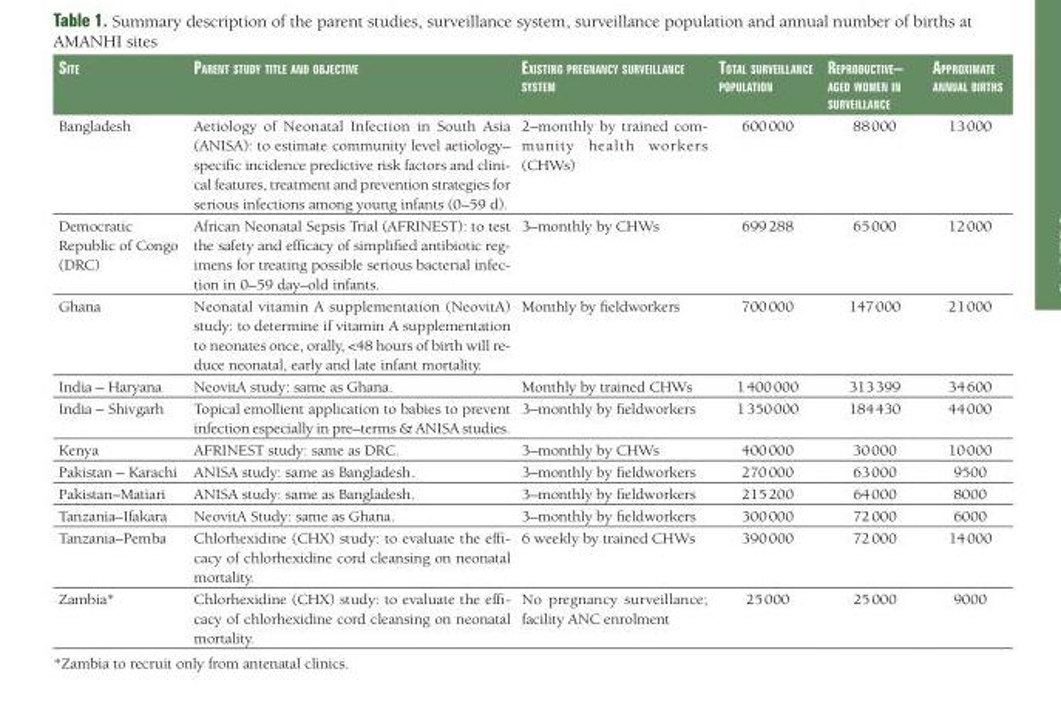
<table><thead><tr><td>Site</td><td>Parent Study title and objective</td><td>exiSting Pregnancy Surveillance SyStem</td><td>total Surveillance PoPulation</td><td>reProductive– aged women in Surveillance</td><td>aPProximate annual birthS</td></tr></thead><tbody><tr><td>Bangladesh</td><td>Aetiology of Neonatal Infection in South Asia (ANISA): to estimate community level aetiology– specific incidence predictive risk factors and clini- cal features, treatment and prevention strategies for serious infections among young infants (0–59 d).</td><td>2–monthly by trained com- munity health workers (CHWs)</td><td>600 000</td><td>88 000</td><td>13 000</td></tr><tr><td>Democratic Republic of Congo (DRC)</td><td>African Neonatal Sepsis Trial (AFRINEST): to test the safety and efficacy of simplified antibiotic reg- imens for treating possible serious bacterial infec- tion in 0–59 day–old infants.</td><td>3–monthly by CHWs</td><td>699 288</td><td>65 000</td><td>12 000</td></tr><tr><td>Ghana</td><td>Neonatal vitamin A supplementation (NeovitA) study: to determine if vitamin A supplementation to neonates once, orally, &lt;48 hours of birth will re- duce neonatal, early and late infant mortality.</td><td>Monthly by fieldworkers</td><td>700 000</td><td>147 000</td><td>21 000</td></tr><tr><td>India – Haryana</td><td>NeovitA study: same as Ghana.</td><td>Monthly by trained CHWs</td><td>1 400 000</td><td>313 399</td><td>34 600</td></tr><tr><td>India – Shivgarh</td><td>Topical emollient application to babies to prevent infection especially in pre–terms &amp; ANISA studies.</td><td>3–monthly by fieldworkers</td><td>1 350 000</td><td>184 430</td><td>44 000</td></tr><tr><td>Kenya</td><td>AFRINEST study: same as DRC.</td><td>3–monthly by CHWs</td><td>400 000</td><td>30 000</td><td>10 000</td></tr><tr><td>Pakistan – Karachi</td><td>ANISA study: same as Bangladesh.</td><td>3–monthly by fieldworkers</td><td>270 000</td><td>63 000</td><td>9500</td></tr><tr><td>Pakistan–Matiari</td><td>ANISA study: same as Bangladesh.</td><td>3–monthly by fieldworkers</td><td>215 200</td><td>64 000</td><td>8000</td></tr><tr><td>Tanzania–Ifakara</td><td>NeovitA Study: same as Ghana.</td><td>3–monthly by fieldworkers</td><td>300 000</td><td>72 000</td><td>6000</td></tr><tr><td>Tanzania–Pemba</td><td>Chlorhexidine (CHX) study: to evaluate the effi- cacy of chlorhexidine cord cleansing on neonatal mortality.</td><td>6 weekly by trained CHWs</td><td>390 000</td><td>72 000</td><td>14 000</td></tr><tr><td>Zambia*</td><td>Chlorhexidine (CHX) study: to evaluate the effi- cacy of chlorhexidine cord cleansing on neonatal mortality.</td><td>No pregnancy surveillance; facility ANC enrolment</td><td>25 000</td><td>25 000</td><td>9000</td></tr></tbody></table>